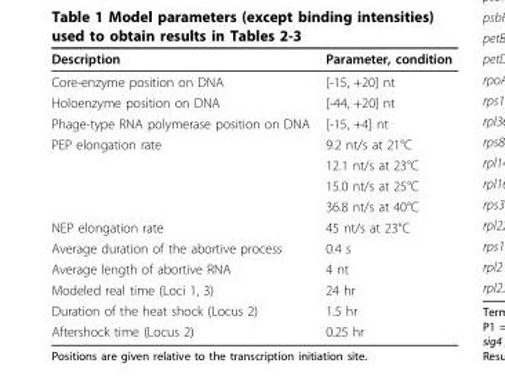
<table><thead><tr><td>Description</td><td>Parameter, condition</td></tr></thead><tbody><tr><td>Core-enzyme position on DNA</td><td>[-15, +20] nt</td></tr><tr><td>Holoenzyme position on DNA</td><td>[-44, +20] nt</td></tr><tr><td>Phage-type RNA polymerase position on DNA</td><td>[-15, +4] nt</td></tr><tr><td rowspan="4">PEP elongation rate</td><td>9.2 nt/s at 21°C</td></tr><tr><td>12.1 nt/s at 23°C</td></tr><tr><td>15.0 nt/s at 25°C</td></tr><tr><td>36.8 nt/s at 40°C</td></tr><tr><td>NEP elongation rate</td><td>45 nt/s at 23°C</td></tr><tr><td>Average duration of the abortive process</td><td>0.4 s</td></tr><tr><td>Average length of abortive RNA</td><td>4 nt</td></tr><tr><td>Modeled real time (Loci 1, 3)</td><td>24 hr</td></tr><tr><td>Duration of the heat shock (Locus 2)</td><td>1.5 hr</td></tr><tr><td>Aftershock time (Locus 2)</td><td>0.25 hr</td></tr></tbody></table>